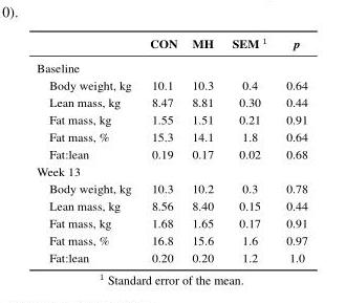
<table><thead><tr><td></td><td>CON</td><td>MH</td><td>SEM <sup>1</sup></td><td>p</td></tr></thead><tbody><tr><td colspan="5">Baseline</td></tr><tr><td>Body weight, kg</td><td>10.1</td><td>10.3</td><td>0.4</td><td>0.64</td></tr><tr><td>Lean mass, kg</td><td>8.47</td><td>8.81</td><td>0.30</td><td>0.44</td></tr><tr><td>Fat mass, kg</td><td>1.55</td><td>1.51</td><td>0.21</td><td>0.91</td></tr><tr><td>Fat mass, %</td><td>15.3</td><td>14.1</td><td>1.8</td><td>0.64</td></tr><tr><td>Fat:lean</td><td>0.19</td><td>0.17</td><td>0.02</td><td>0.68</td></tr><tr><td colspan="5">Week 13</td></tr><tr><td>Body weight, kg</td><td>10.3</td><td>10.2</td><td>0.3</td><td>0.78</td></tr><tr><td>Lean mass, kg</td><td>8.56</td><td>8.40</td><td>0.15</td><td>0.44</td></tr><tr><td>Fat mass, kg</td><td>1.68</td><td>1.65</td><td>0.17</td><td>0.91</td></tr><tr><td>Fat mass, %</td><td>16.8</td><td>15.6</td><td>1.6</td><td>0.97</td></tr><tr><td>Fat:lean</td><td>0.20</td><td>0.20</td><td>1.2</td><td>1.0</td></tr></tbody></table>